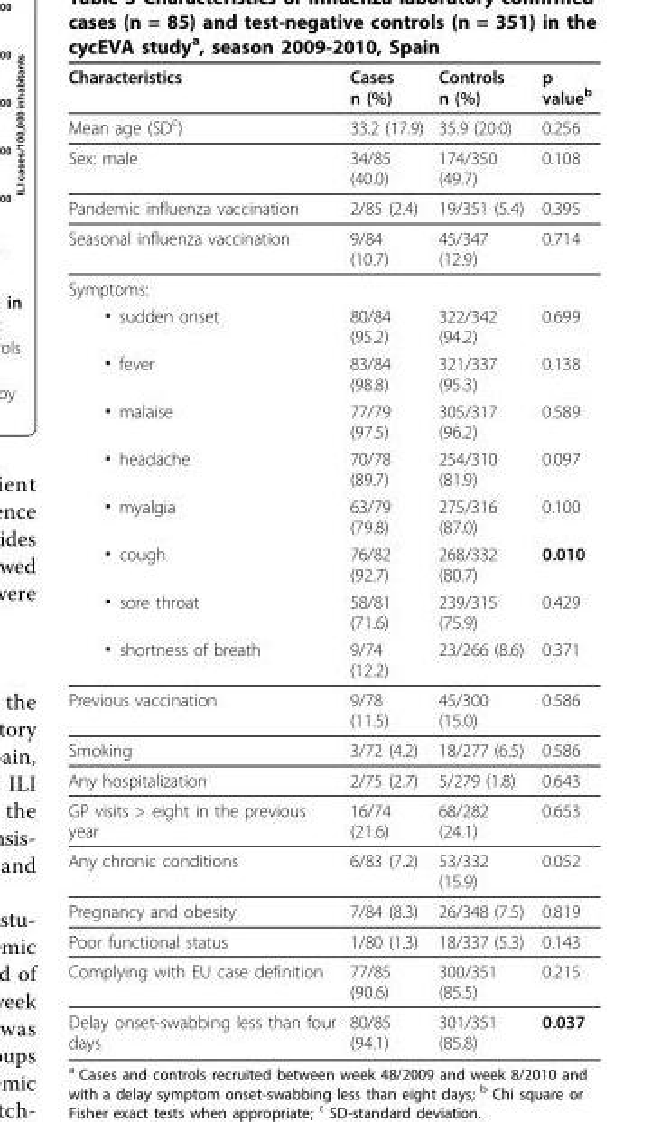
<table><thead><tr><td>Characteristics</td><td>Cases n (%)</td><td>Controls n (%)</td><td>p value<sup>b</sup></td></tr></thead><tbody><tr><td>Mean age (SD<sup>c</sup>)</td><td>33.2 (17.9)</td><td>35.9 (20.0)</td><td>0.256</td></tr><tr><td>Sex: male</td><td>34/85 (40.0)</td><td>174/350 (49.7)</td><td>0.108</td></tr><tr><td>Pandemic influenza vaccination</td><td>2/85 (2.4)</td><td>19/351 (5.4)</td><td>0.395</td></tr><tr><td>Seasonal influenza vaccination</td><td>9/84 (10.7)</td><td>45/347 (12.9)</td><td>0.714</td></tr><tr><td colspan="4">Symptoms:</td></tr><tr><td>▪ sudden onset</td><td>80/84 (95.2)</td><td>322/342 (94.2)</td><td>0.699</td></tr><tr><td>▪ fever</td><td>83/84 (98.8)</td><td>321/337 (95.3)</td><td>0.138</td></tr><tr><td>▪ malaise</td><td>77/79 (97.5)</td><td>305/317 (96.2)</td><td>0.589</td></tr><tr><td>▪ headache</td><td>70/78 (89.7)</td><td>254/310 (81.9)</td><td>0.097</td></tr><tr><td>▪ myalgia</td><td>63/79 (79.8)</td><td>275/316 (87.0)</td><td>0.100</td></tr><tr><td>▪ cough</td><td>76/82 (92.7)</td><td>268/332 (80.7)</td><td>0.010</td></tr><tr><td>▪ sore throat</td><td>58/81 (71.6)</td><td>239/315 (75.9)</td><td>0.429</td></tr><tr><td>▪ shortness of breath</td><td>9/74 (12.2)</td><td>23/266 (8.6)</td><td>0.371</td></tr><tr><td>Previous vaccination</td><td>9/78 (11.5)</td><td>45/300 (15.0)</td><td>0.586</td></tr><tr><td>Smoking</td><td>3/72 (4.2)</td><td>18/277 (6.5)</td><td>0.586</td></tr><tr><td>Any hospitalization</td><td>2/75 (2.7)</td><td>5/279 (1.8)</td><td>0.643</td></tr><tr><td>GP visits &gt; eight in the previous year</td><td>16/74 (21.6)</td><td>68/282 (24.1)</td><td>0.653</td></tr><tr><td>Any chronic conditions</td><td>6/83 (7.2)</td><td>53/332 (15.9)</td><td>0.052</td></tr><tr><td>Pregnancy and obesity</td><td>7/84 (8.3)</td><td>26/348 (7.5)</td><td>0.819</td></tr><tr><td>Poor functional status</td><td>1/80 (1.3)</td><td>18/337 (5.3)</td><td>0.143</td></tr><tr><td>Complying with EU case definition</td><td>77/85 (90.6)</td><td>300/351 (85.5)</td><td>0.215</td></tr><tr><td>Delay onset-swabbing less than four days</td><td>80/85 (94.1)</td><td>301/351 (85.8)</td><td>0.037</td></tr></tbody></table>